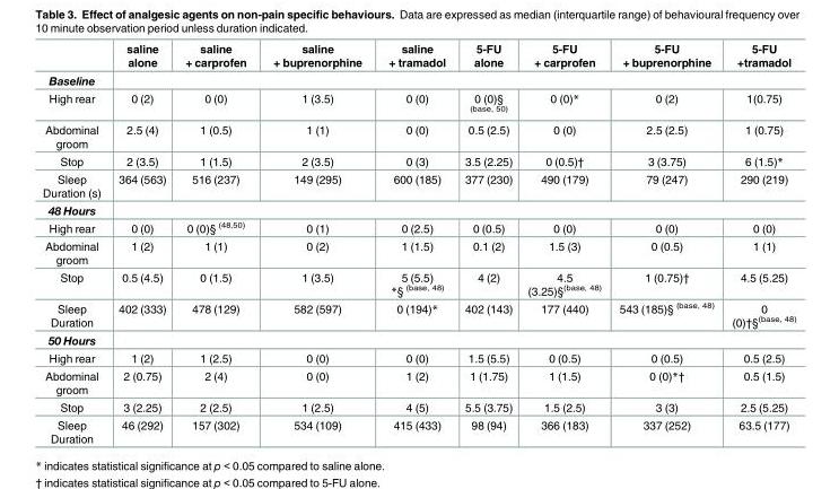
<table><thead><tr><td></td><td>saline alone</td><td>saline + carprofen</td><td>saline + buprenorphine</td><td>saline + tramadol</td><td>5-FU alone</td><td>5-FU + carprofen</td><td>5-FU + buprenorphine</td><td>5-FU +tramadol</td></tr></thead><tbody><tr><td colspan="9">Baseline</td></tr><tr><td>High rear</td><td>0 (2)</td><td>0 (0)</td><td>1 (3.5)</td><td>0 (0)</td><td>0 (0)§ <sup>(base, 50)</sup></td><td>0 (0)*</td><td>0 (2)</td><td>1(0.75)</td></tr><tr><td>Abdominal groom</td><td>2.5 (4)</td><td>1 (0.5)</td><td>1 (1)</td><td>0 (0)</td><td>0.5 (2.5)</td><td>0 (0)</td><td>2.5 (2.5)</td><td>1 (0.75)</td></tr><tr><td>Stop</td><td>2 (3.5)</td><td>1 (1.5)</td><td>2 (3.5)</td><td>0 (3)</td><td>3.5 (2.25)</td><td>0 (0.5)†</td><td>3 (3.75)</td><td>6 (1.5)*</td></tr><tr><td>Sleep Duration (s)</td><td>364 (563)</td><td>516 (237)</td><td>149 (295)</td><td>600 (185)</td><td>377 (230)</td><td>490 (179)</td><td>79 (247)</td><td>290 (219)</td></tr><tr><td colspan="9">48 Hours</td></tr><tr><td>High rear</td><td>0 (0)</td><td>0 (0)§ <sup>(48,50)</sup></td><td>0 (1)</td><td>0 (2.5)</td><td>0 (0.5)</td><td>0 (0)</td><td>0 (0)</td><td>0 (0)</td></tr><tr><td>Abdominal groom</td><td>1 (2)</td><td>1 (1)</td><td>0 (2)</td><td>1 (1.5)</td><td>0.1 (2)</td><td>1.5 (3)</td><td>0 (0.5)</td><td>1 (1)</td></tr><tr><td>Stop</td><td>0.5 (4.5)</td><td>0 (1.5)</td><td>1 (3.5)</td><td>5 (5.5) *§ <sup>(base, 48)</sup></td><td>4 (2)</td><td>4.5 (3.25)§<sup>(base, 48)</sup></td><td>1 (0.75)†</td><td>4.5 (5.25)</td></tr><tr><td>Sleep Duration</td><td>402 (333)</td><td>478 (129)</td><td>582 (597)</td><td>0 (194)*</td><td>402 (143)</td><td>177 (440)</td><td>543 (185)§ <sup>(base, 48)</sup></td><td>0 (0)†§<sup>(base, 48)</sup></td></tr><tr><td colspan="9">50 Hours</td></tr><tr><td>High rear</td><td>1 (2)</td><td>1 (2.5)</td><td>0 (0)</td><td>0 (0)</td><td>1.5 (5.5)</td><td>0 (0.5)</td><td>0 (0.5)</td><td>0.5 (2.5)</td></tr><tr><td>Abdominal groom</td><td>2 (0.75)</td><td>2 (4)</td><td>0 (0)</td><td>1 (2)</td><td>1 (1.75)</td><td>1 (1.5)</td><td>0 (0)*†</td><td>0.5 (1.5)</td></tr><tr><td>Stop</td><td>3 (2.25)</td><td>2 (2.5)</td><td>1 (2.5)</td><td>4 (5)</td><td>5.5 (3.75)</td><td>1.5 (2.5)</td><td>3 (3)</td><td>2.5 (5.25)</td></tr><tr><td>Sleep Duration</td><td>46 (292)</td><td>157 (302)</td><td>534 (109)</td><td>415 (433)</td><td>98 (94)</td><td>366 (183)</td><td>337 (252)</td><td>63.5 (177)</td></tr></tbody></table>